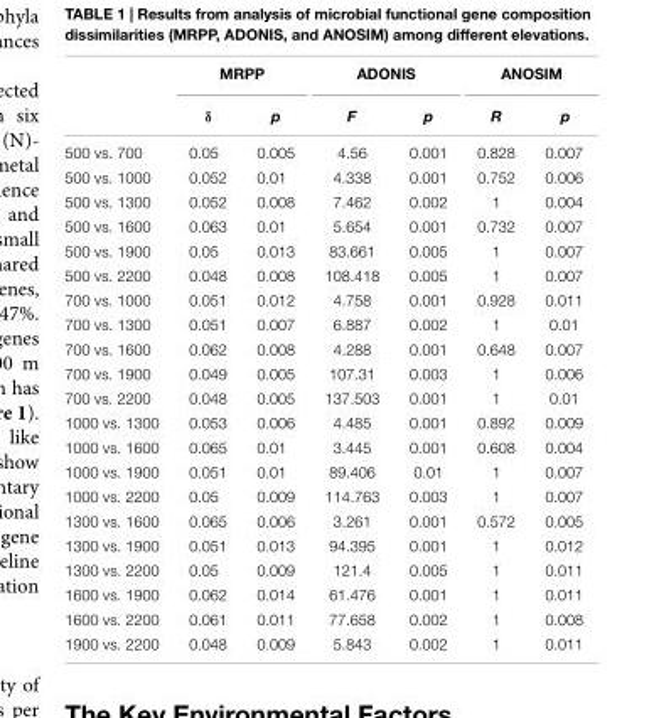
<table><thead><tr><td rowspan="2"></td><td colspan="2">MRPP</td><td colspan="2">ADONIS</td><td colspan="2">ANOSIM</td></tr><tr><td>δ</td><td>p</td><td>F</td><td>p</td><td>R</td><td>p</td></tr></thead><tbody><tr><td>500 vs. 700</td><td>0.05</td><td>0.005</td><td>4.56</td><td>0.001</td><td>0.828</td><td>0.007</td></tr><tr><td>500 vs. 1000</td><td>0.052</td><td>0.01</td><td>4.338</td><td>0.001</td><td>0.752</td><td>0.006</td></tr><tr><td>500 vs. 1300</td><td>0.052</td><td>0.008</td><td>7.462</td><td>0.002</td><td>1</td><td>0.004</td></tr><tr><td>500 vs. 1600</td><td>0.063</td><td>0.01</td><td>5.654</td><td>0.001</td><td>0.732</td><td>0.007</td></tr><tr><td>500 vs. 1900</td><td>0.05</td><td>0.013</td><td>83.661</td><td>0.005</td><td>1</td><td>0.007</td></tr><tr><td>500 vs. 2200</td><td>0.048</td><td>0.008</td><td>108.418</td><td>0.005</td><td>1</td><td>0.007</td></tr><tr><td>700 vs. 1000</td><td>0.051</td><td>0.012</td><td>4.758</td><td>0.001</td><td>0.928</td><td>0.011</td></tr><tr><td>700 vs. 1300</td><td>0.051</td><td>0.007</td><td>6.887</td><td>0.002</td><td>1</td><td>0.01</td></tr><tr><td>700 vs. 1600</td><td>0.062</td><td>0.008</td><td>4.288</td><td>0.001</td><td>0.648</td><td>0.007</td></tr><tr><td>700 vs. 1900</td><td>0.049</td><td>0.005</td><td>107.31</td><td>0.003</td><td>1</td><td>0.006</td></tr><tr><td>700 vs. 2200</td><td>0.048</td><td>0.005</td><td>137.503</td><td>0.001</td><td>1</td><td>0.01</td></tr><tr><td>1000 vs. 1300</td><td>0.053</td><td>0.006</td><td>4.485</td><td>0.001</td><td>0.892</td><td>0.009</td></tr><tr><td>1000 vs. 1600</td><td>0.065</td><td>0.01</td><td>3.445</td><td>0.001</td><td>0.608</td><td>0.004</td></tr><tr><td>1000 vs. 1900</td><td>0.051</td><td>0.01</td><td>89.406</td><td>0.01</td><td>1</td><td>0.007</td></tr><tr><td>1000 vs. 2200</td><td>0.05</td><td>0.009</td><td>114.763</td><td>0.003</td><td>1</td><td>0.007</td></tr><tr><td>1300 vs. 1600</td><td>0.065</td><td>0.006</td><td>3.261</td><td>0.001</td><td>0.572</td><td>0.005</td></tr><tr><td>1300 vs. 1900</td><td>0.051</td><td>0.013</td><td>94.395</td><td>0.001</td><td>1</td><td>0.012</td></tr><tr><td>1300 vs. 2200</td><td>0.05</td><td>0.009</td><td>121.4</td><td>0.005</td><td>1</td><td>0.011</td></tr><tr><td>1600 vs. 1900</td><td>0.062</td><td>0.014</td><td>61.476</td><td>0.001</td><td>1</td><td>0.011</td></tr><tr><td>1600 vs. 2200</td><td>0.061</td><td>0.011</td><td>77.658</td><td>0.002</td><td>1</td><td>0.008</td></tr><tr><td>1900 vs. 2200</td><td>0.048</td><td>0.009</td><td>5.843</td><td>0.002</td><td>1</td><td>0.011</td></tr></tbody></table>